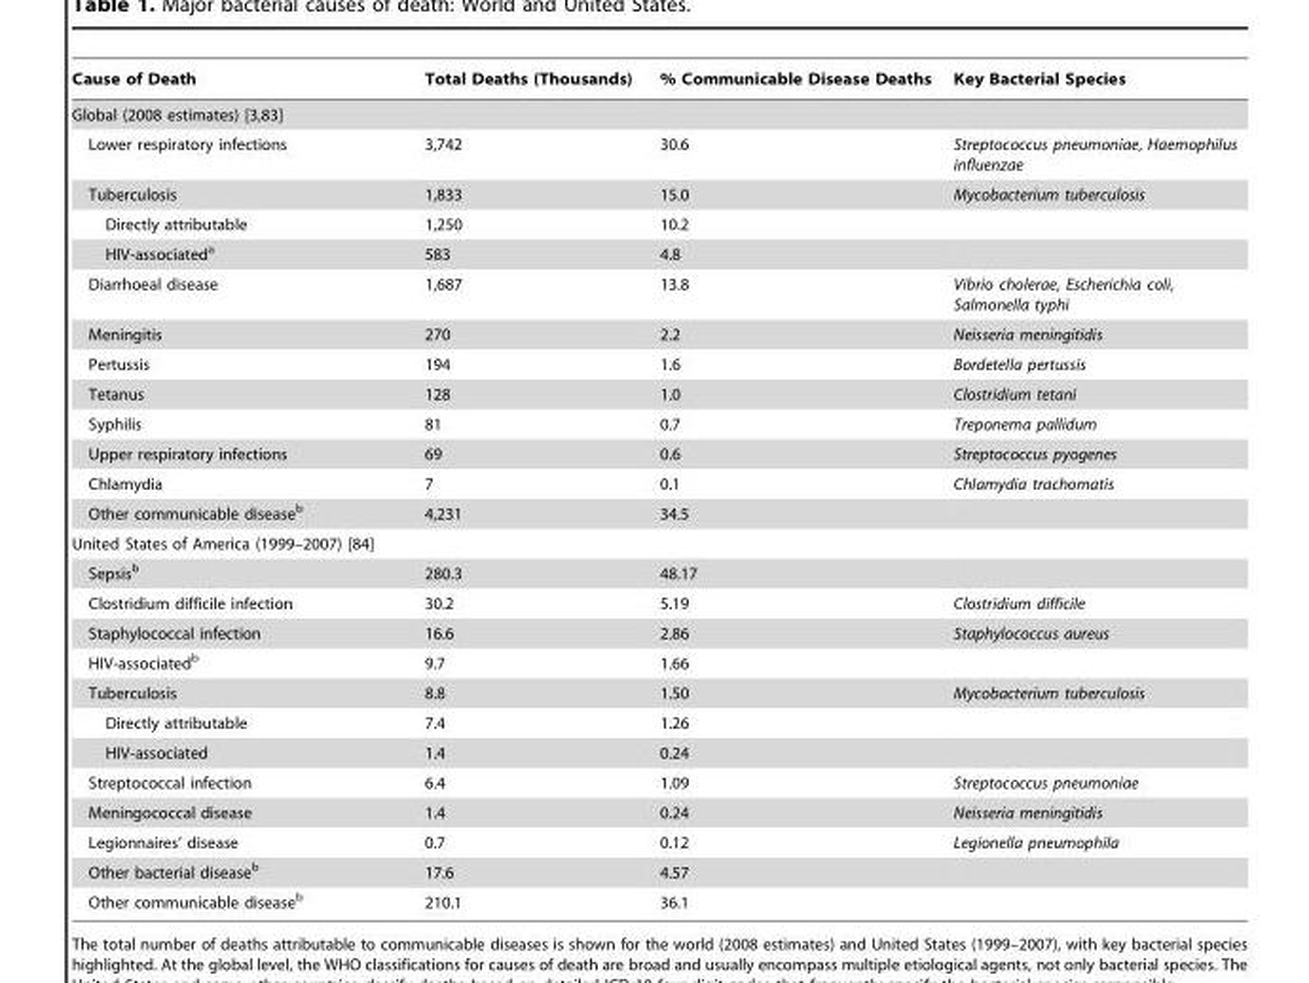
<table><thead><tr><td>Cause of Death</td><td>Total Deaths (Thousands)</td><td>% Communicable Disease Deaths</td><td>Key Bacterial Species</td></tr></thead><tbody><tr><td colspan="4">Global (2008 estimates) [3,83]</td></tr><tr><td>Lower respiratory infections</td><td>3,742</td><td>30.6</td><td>Streptococcus pneumoniae, Haemophilus influenzae</td></tr><tr><td>Tuberculosis</td><td>1,833</td><td>15.0</td><td>Mycobacterium tuberculosis</td></tr><tr><td>Directly attributable</td><td>1,250</td><td>10.2</td><td></td></tr><tr><td>HIV-associated<sup>a</sup></td><td>583</td><td>4.8</td><td></td></tr><tr><td>Diarrhoeal disease</td><td>1,687</td><td>13.8</td><td>Vibrio cholerae, Escherichia coli, Salmonella typhi</td></tr><tr><td>Meningitis</td><td>270</td><td>2.2</td><td>Neisseria meningitidis</td></tr><tr><td>Pertussis</td><td>194</td><td>1.6</td><td>Bordetella pertussis</td></tr><tr><td>Tetanus</td><td>128</td><td>1.0</td><td>Clostridium tetani</td></tr><tr><td>Syphilis</td><td>81</td><td>0.7</td><td>Treponema pallidum</td></tr><tr><td>Upper respiratory infections</td><td>69</td><td>0.6</td><td>Streptococcus pyogenes</td></tr><tr><td>Chlamydia</td><td>7</td><td>0.1</td><td>Chlamydia trachomatis</td></tr><tr><td>Other communicable disease<sup>b</sup></td><td>4,231</td><td>34.5</td><td></td></tr><tr><td colspan="4">United States of America (1999–2007) [84]</td></tr><tr><td>Sepsis<sup>b</sup></td><td>280.3</td><td>48.17</td><td></td></tr><tr><td>Clostridium difficile infection</td><td>30.2</td><td>5.19</td><td>Clostridium difficile</td></tr><tr><td>Staphylococcal infection</td><td>16.6</td><td>2.86</td><td>Staphylococcus aureus</td></tr><tr><td>HIV-associated<sup>b</sup></td><td>9.7</td><td>1.66</td><td></td></tr><tr><td>Tuberculosis</td><td>8.8</td><td>1.50</td><td>Mycobacterium tuberculosis</td></tr><tr><td>Directly attributable</td><td>7.4</td><td>1.26</td><td></td></tr><tr><td>HIV-associated</td><td>1.4</td><td>0.24</td><td></td></tr><tr><td>Streptococcal infection</td><td>6.4</td><td>1.09</td><td>Streptococcus pneumoniae</td></tr><tr><td>Meningococcal disease</td><td>1.4</td><td>0.24</td><td>Neisseria meningitidis</td></tr><tr><td>Legionnaires’ disease</td><td>0.7</td><td>0.12</td><td>Legionella pneumophila</td></tr><tr><td>Other bacterial disease<sup>b</sup></td><td>17.6</td><td>4.57</td><td></td></tr><tr><td>Other communicable disease<sup>b</sup></td><td>210.1</td><td>36.1</td><td></td></tr></tbody></table>